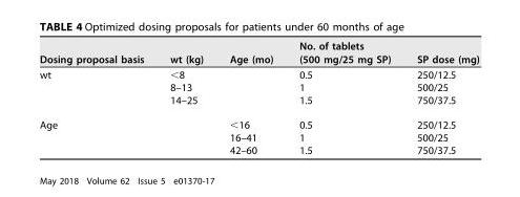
<table><thead><tr><td>Dosing proposal basis</td><td>wt (kg)</td><td>Age (mo)</td><td>No. of tablets (500 mg/25 mg SP)</td><td>SP dose (mg)</td></tr></thead><tbody><tr><td rowspan="3">wt</td><td>&lt;8</td><td></td><td>0.5</td><td>250/12.5</td></tr><tr><td>8–13</td><td></td><td>1</td><td>500/25</td></tr><tr><td>14–25</td><td></td><td>1.5</td><td>750/37.5</td></tr><tr><td rowspan="3">Age</td><td></td><td>&lt;16</td><td>0.5</td><td>250/12.5</td></tr><tr><td></td><td>16–41</td><td>1</td><td>500/25</td></tr><tr><td></td><td>42–60</td><td>1.5</td><td>750/37.5</td></tr></tbody></table>